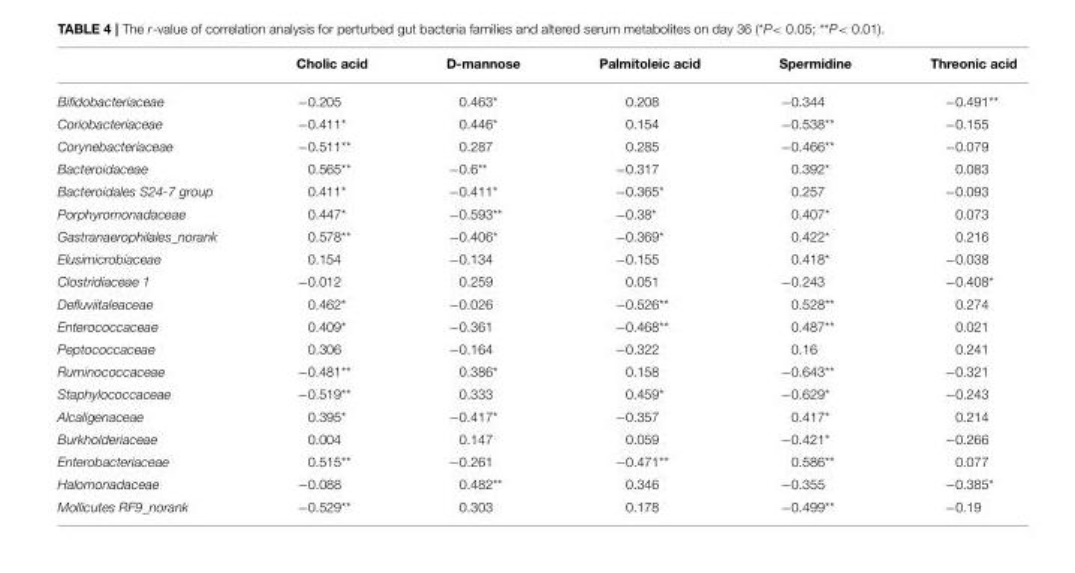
<table><thead><tr><td></td><td>Cholic acid</td><td>D-mannose</td><td>Palmitoleic acid</td><td>Spermidine</td><td>Threonic acid</td></tr></thead><tbody><tr><td>Bifidobacteriaceae</td><td>−0.205</td><td>0.463*</td><td>0.208</td><td>−0.344</td><td>−0.491**</td></tr><tr><td>Coriobacteriaceae</td><td>−0.411*</td><td>0.446*</td><td>0.154</td><td>−0.538**</td><td>−0.155</td></tr><tr><td>Corynebacteriaceae</td><td>−0.511**</td><td>0.287</td><td>0.285</td><td>−0.466**</td><td>−0.079</td></tr><tr><td>Bacteroidaceae</td><td>0.565**</td><td>−0.6**</td><td>−0.317</td><td>0.392*</td><td>0.083</td></tr><tr><td>Bacteroidales S24-7 group</td><td>0.411*</td><td>−0.411*</td><td>−0.365*</td><td>0.257</td><td>−0.093</td></tr><tr><td>Porphyromonadaceae</td><td>0.447*</td><td>−0.593**</td><td>−0.38*</td><td>0.407*</td><td>0.073</td></tr><tr><td>Gastranaerophilales_norank</td><td>0.578**</td><td>−0.406*</td><td>−0.369*</td><td>0.422*</td><td>0.216</td></tr><tr><td>Elusimicrobiaceae</td><td>0.154</td><td>−0.134</td><td>−0.155</td><td>0.418*</td><td>−0.038</td></tr><tr><td>Clostridiaceae 1</td><td>−0.012</td><td>0.259</td><td>0.051</td><td>−0.243</td><td>−0.408*</td></tr><tr><td>Defluviitaleaceae</td><td>0.462*</td><td>−0.026</td><td>−0.526**</td><td>0.528**</td><td>0.274</td></tr><tr><td>Enterococcaceae</td><td>0.409*</td><td>−0.361</td><td>−0.468**</td><td>0.487**</td><td>0.021</td></tr><tr><td>Peptococcaceae</td><td>0.306</td><td>−0.164</td><td>−0.322</td><td>0.16</td><td>0.241</td></tr><tr><td>Ruminococcaceae</td><td>−0.481**</td><td>0.386*</td><td>0.158</td><td>−0.643**</td><td>−0.321</td></tr><tr><td>Staphylococcaceae</td><td>−0.519**</td><td>0.333</td><td>0.459*</td><td>−0.629*</td><td>−0.243</td></tr><tr><td>Alcaligenaceae</td><td>0.395*</td><td>−0.417*</td><td>−0.357</td><td>0.417*</td><td>0.214</td></tr><tr><td>Burkholderiaceae</td><td>0.004</td><td>0.147</td><td>0.059</td><td>−0.421*</td><td>−0.266</td></tr><tr><td>Enterobacteriaceae</td><td>0.515**</td><td>−0.261</td><td>−0.471**</td><td>0.586**</td><td>0.077</td></tr><tr><td>Halomonadaceae</td><td>−0.088</td><td>0.482**</td><td>0.346</td><td>−0.355</td><td>−0.385*</td></tr><tr><td>Mollicutes RF9_norank</td><td>−0.529**</td><td>0.303</td><td>0.178</td><td>−0.499**</td><td>−0.19</td></tr></tbody></table>